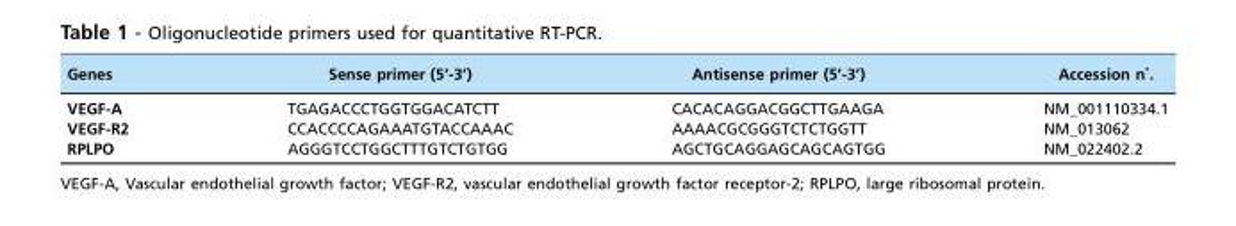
<table><thead><tr><td>Genes</td><td>Sense primer (5’-3’)</td><td>Antisense primer (5’-3’)</td><td>Accession n˚.</td></tr></thead><tbody><tr><td>VEGF-A</td><td>TGAGACCCTGGTGGACATCTT</td><td>CACACAGGACGGCTTGAAGA</td><td>NM_001110334.1</td></tr><tr><td>VEGF-R2</td><td>CCACCCCAGAAATGTACCAAAC</td><td>AAAACGCGGGTCTCTGGTT</td><td>NM_013062</td></tr><tr><td>RPLPO</td><td>AGGGTCCTGGCTTTGTCTGTGG</td><td>AGCTGCAGGAGCAGCAGTGG</td><td>NM_022402.2</td></tr></tbody></table>